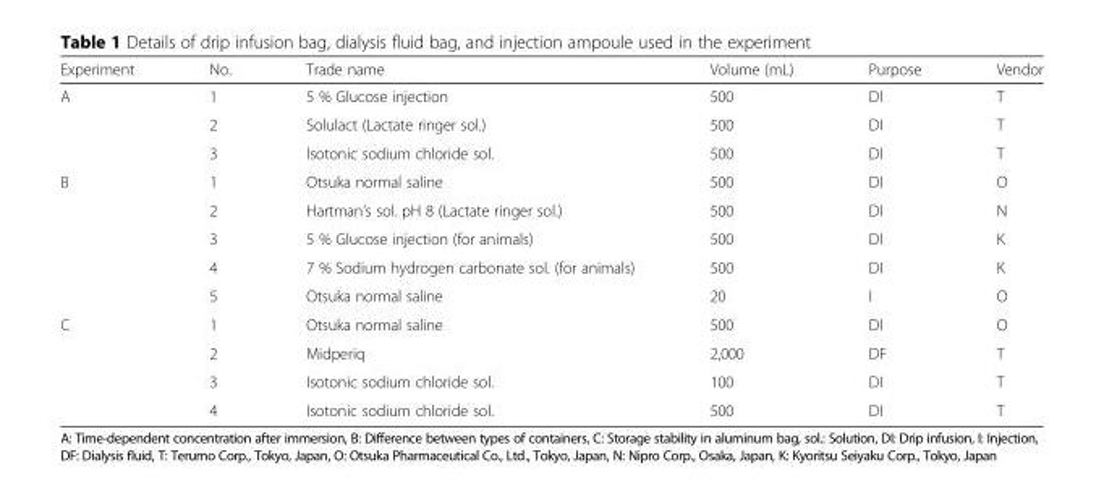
<table><thead><tr><td>Experiment</td><td>No.</td><td>Trade name</td><td>Volume (mL)</td><td>Purpose</td><td>Vendor</td></tr></thead><tbody><tr><td rowspan="3">A</td><td>1</td><td>5 % Glucose injection</td><td>500</td><td>DI</td><td>T</td></tr><tr><td>2</td><td>Solulact (Lactate ringer sol.)</td><td>500</td><td>DI</td><td>T</td></tr><tr><td>3</td><td>Isotonic sodium chloride sol.</td><td>500</td><td>DI</td><td>T</td></tr><tr><td rowspan="5">B</td><td>1</td><td>Otsuka normal saline</td><td>500</td><td>DI</td><td>O</td></tr><tr><td>2</td><td>Hartman’s sol. pH 8 (Lactate ringer sol.)</td><td>500</td><td>DI</td><td>N</td></tr><tr><td>3</td><td>5 % Glucose injection (for animals)</td><td>500</td><td>DI</td><td>K</td></tr><tr><td>4</td><td>7 % Sodium hydrogen carbonate sol. (for animals)</td><td>500</td><td>DI</td><td>K</td></tr><tr><td>5</td><td>Otsuka normal saline</td><td>20</td><td>I</td><td>O</td></tr><tr><td rowspan="4">C</td><td>1</td><td>Otsuka normal saline</td><td>500</td><td>DI</td><td>O</td></tr><tr><td>2</td><td>Midperiq</td><td>2,000</td><td>DF</td><td>T</td></tr><tr><td>3</td><td>Isotonic sodium chloride sol.</td><td>100</td><td>DI</td><td>T</td></tr><tr><td>4</td><td>Isotonic sodium chloride sol.</td><td>500</td><td>DI</td><td>T</td></tr></tbody></table>